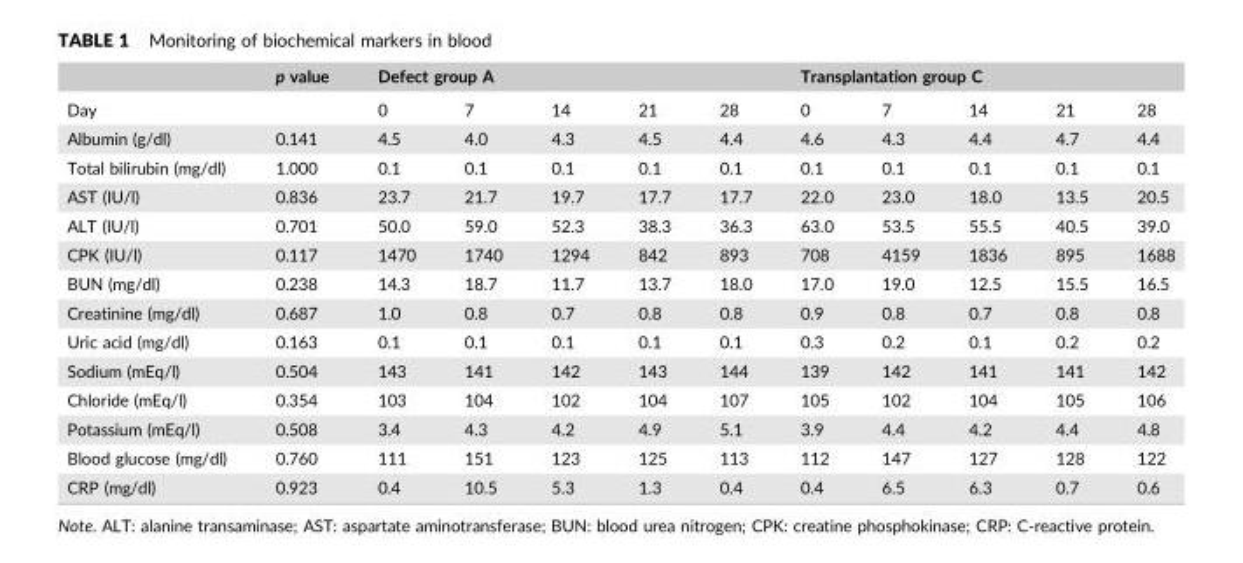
<table><thead><tr><td rowspan="2">Day</td><td rowspan="2">p value</td><td colspan="5">Defect group A</td><td colspan="5">Transplantation group C</td></tr><tr><td>0</td><td>7</td><td>14</td><td>21</td><td>28</td><td>0</td><td>7</td><td>14</td><td>21</td><td>28</td></tr></thead><tbody><tr><td>Albumin (g/dl)</td><td>0.141</td><td>4.5</td><td>4.0</td><td>4.3</td><td>4.5</td><td>4.4</td><td>4.6</td><td>4.3</td><td>4.4</td><td>4.7</td><td>4.4</td></tr><tr><td>Total bilirubin (mg/dl)</td><td>1.000</td><td>0.1</td><td>0.1</td><td>0.1</td><td>0.1</td><td>0.1</td><td>0.1</td><td>0.1</td><td>0.1</td><td>0.1</td><td>0.1</td></tr><tr><td>AST (IU/l)</td><td>0.836</td><td>23.7</td><td>21.7</td><td>19.7</td><td>17.7</td><td>17.7</td><td>22.0</td><td>23.0</td><td>18.0</td><td>13.5</td><td>20.5</td></tr><tr><td>ALT (IU/l)</td><td>0.701</td><td>50.0</td><td>59.0</td><td>52.3</td><td>38.3</td><td>36.3</td><td>63.0</td><td>53.5</td><td>55.5</td><td>40.5</td><td>39.0</td></tr><tr><td>CPK (IU/l)</td><td>0.117</td><td>1470</td><td>1740</td><td>1294</td><td>842</td><td>893</td><td>708</td><td>4159</td><td>1836</td><td>895</td><td>1688</td></tr><tr><td>BUN (mg/dl)</td><td>0.238</td><td>14.3</td><td>18.7</td><td>11.7</td><td>13.7</td><td>18.0</td><td>17.0</td><td>19.0</td><td>12.5</td><td>15.5</td><td>16.5</td></tr><tr><td>Creatinine (mg/dl)</td><td>0.687</td><td>1.0</td><td>0.8</td><td>0.7</td><td>0.8</td><td>0.8</td><td>0.9</td><td>0.8</td><td>0.7</td><td>0.8</td><td>0.8</td></tr><tr><td>Uric acid (mg/dl)</td><td>0.163</td><td>0.1</td><td>0.1</td><td>0.1</td><td>0.1</td><td>0.1</td><td>0.3</td><td>0.2</td><td>0.1</td><td>0.2</td><td>0.2</td></tr><tr><td>Sodium (mEq/l)</td><td>0.504</td><td>143</td><td>141</td><td>142</td><td>143</td><td>144</td><td>139</td><td>142</td><td>141</td><td>141</td><td>142</td></tr><tr><td>Chloride (mEq/l)</td><td>0.354</td><td>103</td><td>104</td><td>102</td><td>104</td><td>107</td><td>105</td><td>102</td><td>104</td><td>105</td><td>106</td></tr><tr><td>Potassium (mEq/l)</td><td>0.508</td><td>3.4</td><td>4.3</td><td>4.2</td><td>4.9</td><td>5.1</td><td>3.9</td><td>4.4</td><td>4.2</td><td>4.4</td><td>4.8</td></tr><tr><td>Blood glucose (mg/dl)</td><td>0.760</td><td>111</td><td>151</td><td>123</td><td>125</td><td>113</td><td>112</td><td>147</td><td>127</td><td>128</td><td>122</td></tr><tr><td>CRP (mg/dl)</td><td>0.923</td><td>0.4</td><td>10.5</td><td>5.3</td><td>1.3</td><td>0.4</td><td>0.4</td><td>6.5</td><td>6.3</td><td>0.7</td><td>0.6</td></tr></tbody></table>